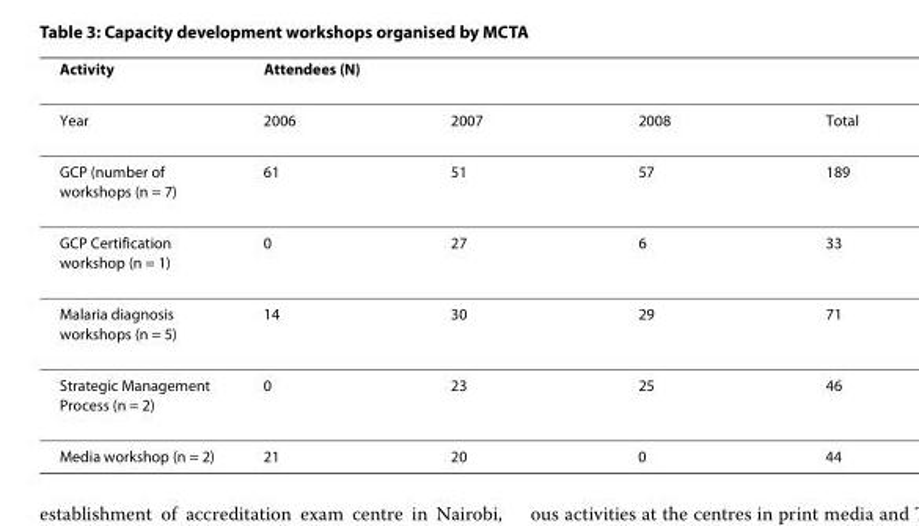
<table><thead><tr><td rowspan="2">Activity Year</td><td colspan="4">Attendees (N)</td></tr><tr><td>2006</td><td>2007</td><td>2008</td><td>Total</td></tr></thead><tbody><tr><td>GCP (number of workshops (n = 7)</td><td>61</td><td>51</td><td>57</td><td>189</td></tr><tr><td>GCP Certification workshop (n = 1)</td><td>0</td><td>27</td><td>6</td><td>33</td></tr><tr><td>Malaria diagnosis workshops (n = 5)</td><td>14</td><td>30</td><td>29</td><td>71</td></tr><tr><td>Strategic Management Process (n = 2)</td><td>0</td><td>23</td><td>25</td><td>46</td></tr><tr><td>Media workshop (n = 2)</td><td>21</td><td>20</td><td>0</td><td>44</td></tr></tbody></table>